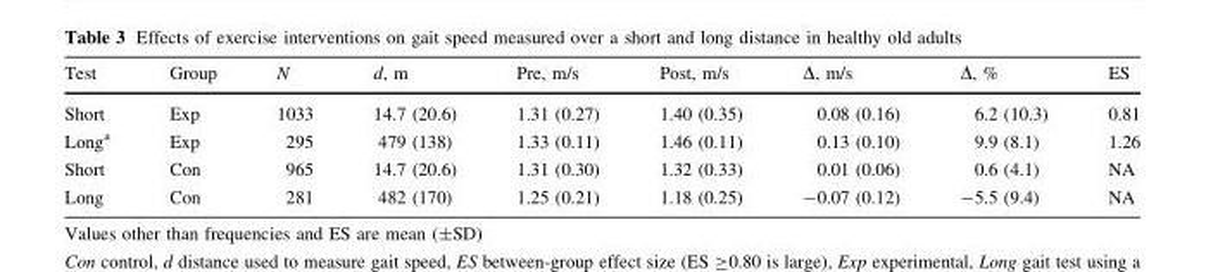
<table><thead><tr><td>Test</td><td>Group</td><td>N</td><td>d, m</td><td>Pre, m/s</td><td>Post, m/s</td><td>∆, m/s</td><td>∆, %</td><td>ES</td></tr></thead><tbody><tr><td>Short</td><td>Exp</td><td>1033</td><td>14.7 (20.6)</td><td>1.31 (0.27)</td><td>1.40 (0.35)</td><td>0.08 (0.16)</td><td>6.2 (10.3)</td><td>0.81</td></tr><tr><td>Long<sup>a</sup></td><td>Exp</td><td>295</td><td>479 (138)</td><td>1.33 (0.11)</td><td>1.46 (0.11)</td><td>0.13 (0.10)</td><td>9.9 (8.1)</td><td>1.26</td></tr><tr><td>Short</td><td>Con</td><td>965</td><td>14.7 (20.6)</td><td>1.31 (0.30)</td><td>1.32 (0.33)</td><td>0.01 (0.06)</td><td>0.6 (4.1)</td><td>NA</td></tr><tr><td>Long</td><td>Con</td><td>281</td><td>482 (170)</td><td>1.25 (0.21)</td><td>1.18 (0.25)</td><td>-0.07 (0.12)</td><td>-5.5 (9.4)</td><td>NA</td></tr></tbody></table>